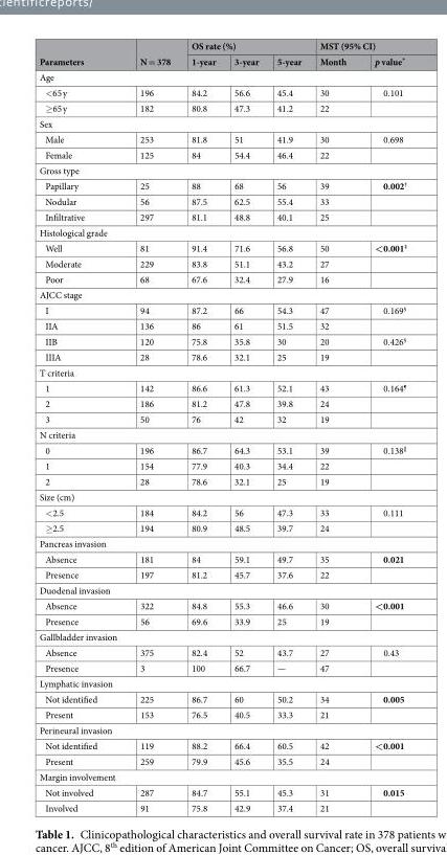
<table><thead><tr><td rowspan="2">Parameters</td><td rowspan="2">N = 378</td><td colspan="3">OS rate (%)</td><td colspan="2">MST (95% CI)</td></tr><tr><td>1-year</td><td>3-year</td><td>5-year</td><td>Month</td><td>p value*</td></tr></thead><tbody><tr><td colspan="7">Age</td></tr><tr><td>&lt;65 y</td><td>196</td><td>84.2</td><td>56.6</td><td>45.4</td><td>30</td><td>0.101</td></tr><tr><td>≥65 y</td><td>182</td><td>80.8</td><td>47.3</td><td>41.2</td><td>22</td><td></td></tr><tr><td colspan="7">Sex</td></tr><tr><td>Male</td><td>253</td><td>81.8</td><td>51</td><td>41.9</td><td>30</td><td>0.698</td></tr><tr><td>Female</td><td>125</td><td>84</td><td>54.4</td><td>46.4</td><td>22</td><td></td></tr><tr><td colspan="7">Gross type</td></tr><tr><td>Papillary</td><td>25</td><td>88</td><td>68</td><td>56</td><td>39</td><td>0.002<sup>†</sup></td></tr><tr><td>Nodular</td><td>56</td><td>87.5</td><td>62.5</td><td>55.4</td><td>33</td><td></td></tr><tr><td>Infiltrative</td><td>297</td><td>81.1</td><td>48.8</td><td>40.1</td><td>25</td><td></td></tr><tr><td colspan="7">Histological grade</td></tr><tr><td>Well</td><td>81</td><td>91.4</td><td>71.6</td><td>56.8</td><td>50</td><td>&lt;0.001<sup>‡</sup></td></tr><tr><td>Moderate</td><td>229</td><td>83.8</td><td>51.1</td><td>43.2</td><td>27</td><td></td></tr><tr><td>Poor</td><td>68</td><td>67.6</td><td>32.4</td><td>27.9</td><td>16</td><td></td></tr><tr><td colspan="7">AJCC stage</td></tr><tr><td>I</td><td>94</td><td>87.2</td><td>66</td><td>54.3</td><td>47</td><td>0.169<sup>§</sup></td></tr><tr><td>IIA</td><td>136</td><td>86</td><td>61</td><td>51.5</td><td>32</td><td></td></tr><tr><td>IIB</td><td>120</td><td>75.8</td><td>35.8</td><td>30</td><td>20</td><td>0.426<sup>§</sup></td></tr><tr><td>IIIA</td><td>28</td><td>78.6</td><td>32.1</td><td>25</td><td>19</td><td></td></tr><tr><td colspan="7">T criteria</td></tr><tr><td>1</td><td>142</td><td>86.6</td><td>61.3</td><td>52.1</td><td>43</td><td>0.164<sup>¶</sup></td></tr><tr><td>2</td><td>186</td><td>81.2</td><td>47.8</td><td>39.8</td><td>24</td><td></td></tr><tr><td>3</td><td>50</td><td>76</td><td>42</td><td>32</td><td>19</td><td></td></tr><tr><td colspan="7">N criteria</td></tr><tr><td>0</td><td>196</td><td>86.7</td><td>64.3</td><td>53.1</td><td>39</td><td>0.138<sup>‖</sup></td></tr><tr><td>1</td><td>154</td><td>77.9</td><td>40.3</td><td>34.4</td><td>22</td><td></td></tr><tr><td>2</td><td>28</td><td>78.6</td><td>32.1</td><td>25</td><td>19</td><td></td></tr><tr><td colspan="7">Size (cm)</td></tr><tr><td>&lt;2.5</td><td>184</td><td>84.2</td><td>56</td><td>47.3</td><td>33</td><td>0.111</td></tr><tr><td>≥2.5</td><td>194</td><td>80.9</td><td>48.5</td><td>39.7</td><td>24</td><td></td></tr><tr><td colspan="7">Pancreas invasion</td></tr><tr><td>Absence</td><td>181</td><td>84</td><td>59.1</td><td>49.7</td><td>35</td><td>0.021</td></tr><tr><td>Presence</td><td>197</td><td>81.2</td><td>45.7</td><td>37.6</td><td>22</td><td></td></tr><tr><td colspan="7">Duodenal invasion</td></tr><tr><td>Absence</td><td>322</td><td>84.8</td><td>55.3</td><td>46.6</td><td>30</td><td>&lt;0.001</td></tr><tr><td>Presence</td><td>56</td><td>69.6</td><td>33.9</td><td>25</td><td>19</td><td></td></tr><tr><td colspan="7">Gallbladder invasion</td></tr><tr><td>Absence</td><td>375</td><td>82.4</td><td>52</td><td>43.7</td><td>27</td><td>0.43</td></tr><tr><td>Presence</td><td>3</td><td>100</td><td>66.7</td><td>—</td><td>47</td><td></td></tr><tr><td colspan="7">Lymphatic invasion</td></tr><tr><td>Not identified</td><td>225</td><td>86.7</td><td>60</td><td>50.2</td><td>34</td><td>0.005</td></tr><tr><td>Present</td><td>153</td><td>76.5</td><td>40.5</td><td>33.3</td><td>21</td><td></td></tr><tr><td colspan="7">Perineural invasion</td></tr><tr><td>Not identified</td><td>119</td><td>88.2</td><td>66.4</td><td>60.5</td><td>42</td><td>&lt;0.001</td></tr><tr><td>Present</td><td>259</td><td>79.9</td><td>45.6</td><td>35.5</td><td>24</td><td></td></tr><tr><td colspan="7">Margin involvement</td></tr><tr><td>Not involved</td><td>287</td><td>84.7</td><td>55.1</td><td>45.3</td><td>31</td><td>0.015</td></tr><tr><td>Involved</td><td>91</td><td>75.8</td><td>42.9</td><td>37.4</td><td>21</td><td></td></tr></tbody></table>